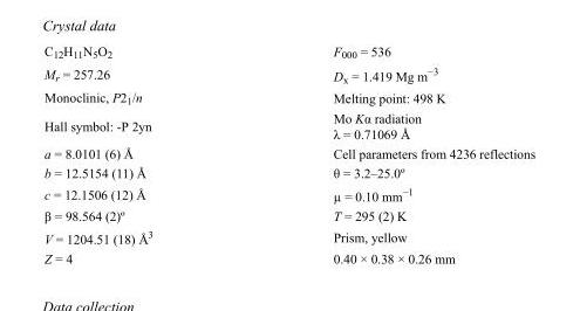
<table><tbody><tr><td>C<sub>12</sub>H<sub>11</sub>N<sub>5</sub>O<sub>2</sub></td><td>F<sub>000</sub> = 536</td></tr><tr><td>M<sub>r</sub> = 257.26</td><td>D<sub>x</sub> = 1.419 Mg m<sup>−3</sup></td></tr><tr><td>Monoclinic, P2<sub>1</sub>/n</td><td>Melting point: 498 K</td></tr><tr><td>Hall symbol: -P 2yn</td><td>Mo Kα radiation λ = 0.71069 Å</td></tr><tr><td>a = 8.0101 (6) Å</td><td>Cell parameters from 4236 reflections</td></tr><tr><td>b = 12.5154 (11) Å</td><td>θ = 3.2–25.0º</td></tr><tr><td>c = 12.1506 (12) Å</td><td>µ = 0.10 mm<sup>−1</sup></td></tr><tr><td>β = 98.564 (2)º</td><td>T = 295 (2) K</td></tr><tr><td>V = 1204.51 (18) Å<sup>3</sup></td><td>Prism, yellow</td></tr><tr><td>Z = 4</td><td>0.40 × 0.38 × 0.26 mm</td></tr></tbody></table>